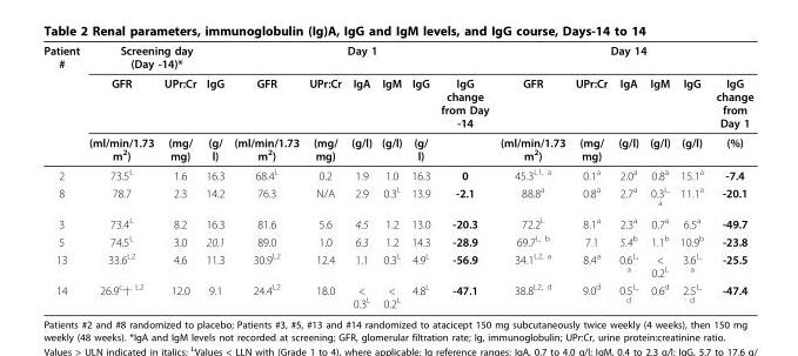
<table><thead><tr><td rowspan="3">Patient #</td><td colspan="3">Screening day (Day -14)*</td><td colspan="6">Day 1</td><td colspan="6">Day 14</td></tr><tr><td rowspan="2">GFR (ml/min/1.73 m<sup>2</sup>)</td><td rowspan="2">UPr:Cr (mg/ mg)</td><td rowspan="2">IgG (g/ l)</td><td rowspan="2">GFR (ml/min/1.73 m<sup>2</sup>)</td><td rowspan="2">UPr:Cr (mg/ mg)</td><td rowspan="2">IgA (g/l)</td><td rowspan="2">IgM (g/l)</td><td rowspan="2">IgG (g/ l)</td><td rowspan="2">IgG change from Day -14</td><td rowspan="2">GFR (ml/min/1.73 m<sup>2</sup>)</td><td rowspan="2">UPr:Cr (mg/ mg)</td><td rowspan="2">IgA (g/l)</td><td rowspan="2">IgM (g/l)</td><td rowspan="2">IgG (g/l)</td><td rowspan="2">IgG change from Day 1 (%)</td></tr><tr></tr></thead><tbody><tr><td>2</td><td>73.5<sup>L</sup></td><td>1.6</td><td>16.3</td><td>68.4<sup>L</sup></td><td>0.2</td><td>1.9</td><td>1.0</td><td>16.3</td><td>0</td><td>45.3<sup>L1, a</sup></td><td>0.1<sup>a</sup></td><td>2.0<sup>a</sup></td><td>0.8<sup>a</sup></td><td>15.1<sup>a</sup></td><td>-7.4</td></tr><tr><td>8</td><td>78.7</td><td>2.3</td><td>14.2</td><td>76.3</td><td>N/A</td><td>2.9</td><td>0.3<sup>L</sup></td><td>13.9</td><td>-2.1</td><td>88.8<sup>a</sup></td><td>0.8<sup>a</sup></td><td>2.7<sup>a</sup></td><td>0.3<sup>L, a</sup></td><td>11.1<sup>a</sup></td><td>-20.1</td></tr><tr><td>3</td><td>73.4<sup>L</sup></td><td>8.2</td><td>16.3</td><td>81.6</td><td>5.6</td><td>4.5</td><td>1.2</td><td>13.0</td><td>-20.3</td><td>72.2<sup>L</sup></td><td>8.1<sup>a</sup></td><td>2.3<sup>a</sup></td><td>0.7<sup>a</sup></td><td>6.5<sup>a</sup></td><td>-49.7</td></tr><tr><td>5</td><td>74.5<sup>L</sup></td><td>3.0</td><td>20.1</td><td>89.0</td><td>1.0</td><td>6.3</td><td>1.2</td><td>14.3</td><td>-28.9</td><td>69.7<sup>L, b</sup></td><td>7.1</td><td>5.4<sup>b</sup></td><td>1.1<sup>b</sup></td><td>10.9<sup>b</sup></td><td>-23.8</td></tr><tr><td>13</td><td>33.6<sup>L2</sup></td><td>4.6</td><td>11.3</td><td>30.9<sup>L2</sup></td><td>12.4</td><td>1.1</td><td>0.3<sup>L</sup></td><td>4.9<sup>L</sup></td><td>-56.9</td><td>34.1<sup>L2, a</sup></td><td>8.4<sup>a</sup></td><td>0.6<sup>L, a</sup></td><td>&lt; 0.2<sup>L</sup></td><td>3.6<sup>L, a</sup></td><td>-25.5</td></tr><tr><td>14</td><td>26.9<sup>c,</sup>†<sup>, L2</sup></td><td>12.0</td><td>9.1</td><td>24.4<sup>L2</sup></td><td>18.0</td><td>&lt; 0.3<sup>L</sup></td><td>&lt; 0.2<sup>L</sup></td><td>4.8<sup>L</sup></td><td>-47.1</td><td>38.8<sup>L2, d</sup></td><td>9.0<sup>d</sup></td><td>0.5<sup>L, d</sup></td><td>0.6<sup>d</sup></td><td>2.5<sup>L, d</sup></td><td>-47.4</td></tr></tbody></table>